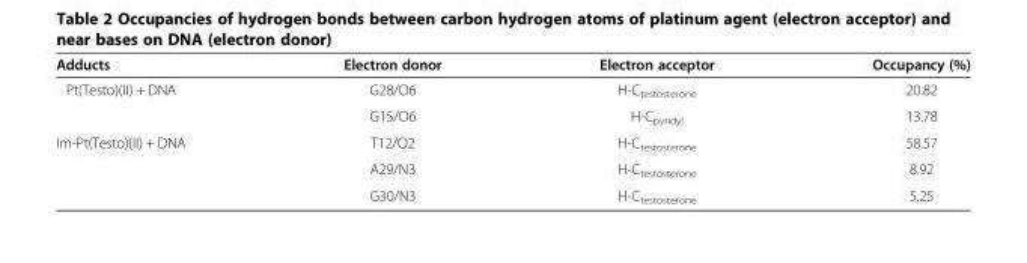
<table><thead><tr><td>Adducts</td><td>Electron donor</td><td>Electron acceptor</td><td>Occupancy (%)</td></tr></thead><tbody><tr><td rowspan="2">Pt(Testo)(II) + DNA</td><td>G28/O6</td><td>H-C<sub>testosterone</sub></td><td>20.82</td></tr><tr><td>G15/O6</td><td>H-C<sub>pyridyl</sub></td><td>13.78</td></tr><tr><td rowspan="3">Im-Pt(Testo)(II) + DNA</td><td>T12/O2</td><td>H-C<sub>testosterone</sub></td><td>58.57</td></tr><tr><td>A29/N3</td><td>H-C<sub>testosterone</sub></td><td>8.92</td></tr><tr><td>G30/N3</td><td>H-C<sub>testosterone</sub></td><td>5.25</td></tr></tbody></table>